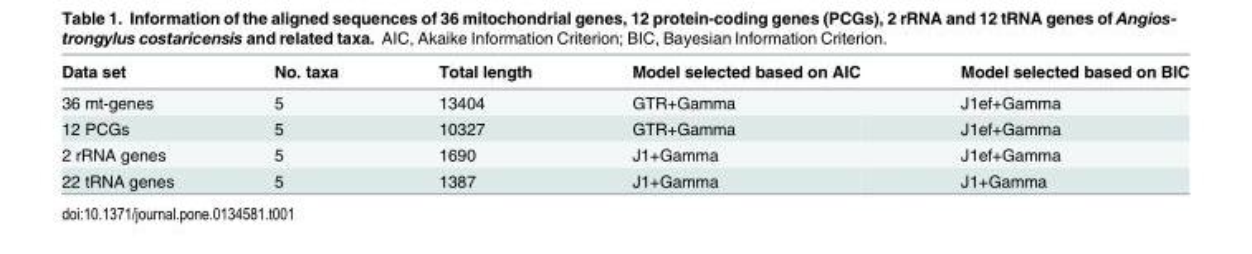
<table><thead><tr><td>Data set</td><td>No. taxa</td><td>Total length</td><td>Model selected based on AIC</td><td>Model selected based on BIC</td></tr></thead><tbody><tr><td>36 mt-genes</td><td>5</td><td>13404</td><td>GTR+Gamma</td><td>J1ef+Gamma</td></tr><tr><td>12 PCGs</td><td>5</td><td>10327</td><td>GTR+Gamma</td><td>J1ef+Gamma</td></tr><tr><td>2 rRNA genes</td><td>5</td><td>1690</td><td>J1+Gamma</td><td>J1ef+Gamma</td></tr><tr><td>22 tRNA genes</td><td>5</td><td>1387</td><td>J1+Gamma</td><td>J1+Gamma</td></tr></tbody></table>